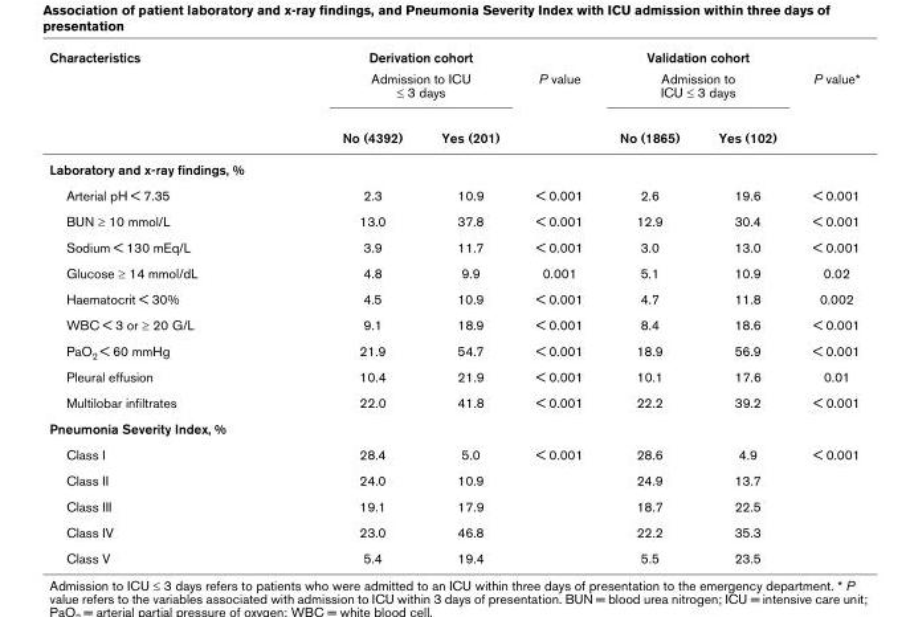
<table><thead><tr><td rowspan="3">Characteristics</td><td rowspan="2" colspan="2">Derivation cohort Admission to ICU ≤ 3 days</td><td rowspan="3">P value</td><td rowspan="2" colspan="2">Validation cohort Admission to ICU ≤ 3 days</td><td rowspan="3">P value*</td></tr><tr></tr><tr><td>No (4392)</td><td>Yes (201)</td><td>No (1865)</td><td>Yes (102)</td></tr></thead><tbody><tr><td colspan="7">Laboratory and x-ray findings, %</td></tr><tr><td>Arterial pH &lt; 7.35</td><td>2.3</td><td>10.9</td><td>&lt; 0.001</td><td>2.6</td><td>19.6</td><td>&lt; 0.001</td></tr><tr><td>BUN ≥ 10 mmol/L</td><td>13.0</td><td>37.8</td><td>&lt; 0.001</td><td>12.9</td><td>30.4</td><td>&lt; 0.001</td></tr><tr><td>Sodium &lt; 130 mEq/L</td><td>3.9</td><td>11.7</td><td>&lt; 0.001</td><td>3.0</td><td>13.0</td><td>&lt; 0.001</td></tr><tr><td>Glucose ≥ 14 mmol/dL</td><td>4.8</td><td>9.9</td><td>0.001</td><td>5.1</td><td>10.9</td><td>0.02</td></tr><tr><td>Haematocrit &lt; 30%</td><td>4.5</td><td>10.9</td><td>&lt; 0.001</td><td>4.7</td><td>11.8</td><td>0.002</td></tr><tr><td>WBC &lt; 3 or ≥ 20 G/L</td><td>9.1</td><td>18.9</td><td>&lt; 0.001</td><td>8.4</td><td>18.6</td><td>&lt; 0.001</td></tr><tr><td>PaO<sub>2</sub> &lt; 60 mmHg</td><td>21.9</td><td>54.7</td><td>&lt; 0.001</td><td>18.9</td><td>56.9</td><td>&lt; 0.001</td></tr><tr><td>Pleural effusion</td><td>10.4</td><td>21.9</td><td>&lt; 0.001</td><td>10.1</td><td>17.6</td><td>0.01</td></tr><tr><td>Multilobar infiltrates</td><td>22.0</td><td>41.8</td><td>&lt; 0.001</td><td>22.2</td><td>39.2</td><td>&lt; 0.001</td></tr><tr><td colspan="7">Pneumonia Severity Index, %</td></tr><tr><td>Class I</td><td>28.4</td><td>5.0</td><td>&lt; 0.001</td><td>28.6</td><td>4.9</td><td>&lt; 0.001</td></tr><tr><td>Class II</td><td>24.0</td><td>10.9</td><td></td><td>24.9</td><td>13.7</td><td></td></tr><tr><td>Class III</td><td>19.1</td><td>17.9</td><td></td><td>18.7</td><td>22.5</td><td></td></tr><tr><td>Class IV</td><td>23.0</td><td>46.8</td><td></td><td>22.2</td><td>35.3</td><td></td></tr><tr><td>Class V</td><td>5.4</td><td>19.4</td><td></td><td>5.5</td><td>23.5</td><td></td></tr></tbody></table>